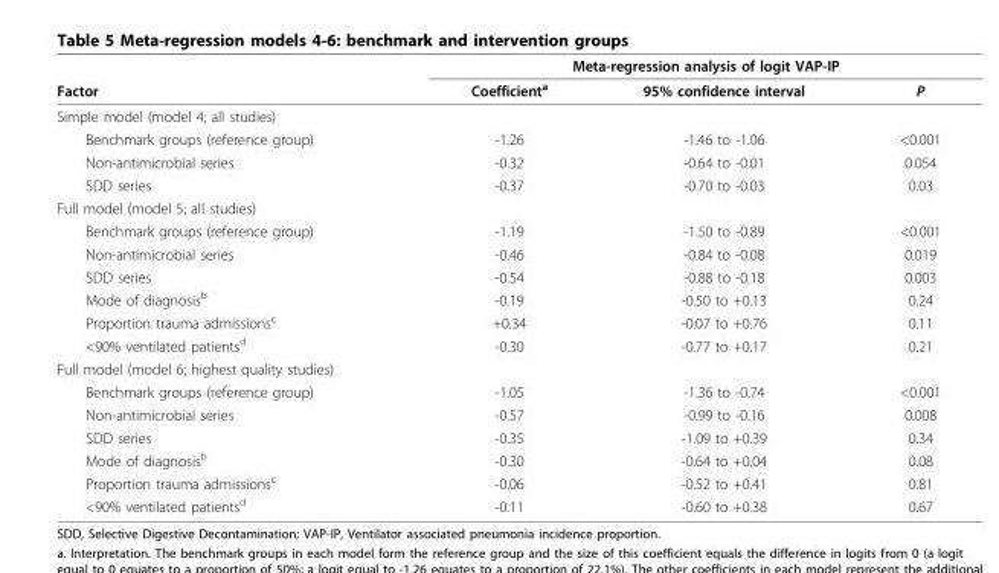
<table><thead><tr><td rowspan="2">Factor</td><td colspan="3">Meta-regression analysis of logit VAP-IP</td></tr><tr><td>Coefficient<sup>a</sup></td><td>95% confidence interval</td><td>P</td></tr></thead><tbody><tr><td colspan="4">Simple model (model 4; all studies)</td></tr><tr><td>Benchmark groups (reference group)</td><td>-1.26</td><td>-1.46 to -1.06</td><td>&lt;0.001</td></tr><tr><td>Non-antimicrobial series</td><td>-0.32</td><td>-0.64 to -0.01</td><td>0.054</td></tr><tr><td>SDD series</td><td>-0.37</td><td>-0.70 to -0.03</td><td>0.03</td></tr><tr><td colspan="4">Full model (model 5; all studies)</td></tr><tr><td>Benchmark groups (reference group)</td><td>-1.19</td><td>-1.50 to -0.89</td><td>&lt;0.001</td></tr><tr><td>Non-antimicrobial series</td><td>-0.46</td><td>-0.84 to -0.08</td><td>0.019</td></tr><tr><td>SDD series</td><td>-0.54</td><td>-0.88 to -0.18</td><td>0.003</td></tr><tr><td>Mode of diagnosis<sup>b</sup></td><td>-0.19</td><td>-0.50 to +0.13</td><td>0.24</td></tr><tr><td>Proportion trauma admissions<sup>c</sup></td><td>+0.34</td><td>-0.07 to +0.76</td><td>0.11</td></tr><tr><td>&lt;90% ventilated patients<sup>d</sup></td><td>-0.30</td><td>-0.77 to +0.17</td><td>0.21</td></tr><tr><td colspan="4">Full model (model 6; highest quality studies)</td></tr><tr><td>Benchmark groups (reference group)</td><td>-1.05</td><td>-1.36 to -0.74</td><td>&lt;0.001</td></tr><tr><td>Non-antimicrobial series</td><td>-0.57</td><td>-0.99 to -0.16</td><td>0.008</td></tr><tr><td>SDD series</td><td>-0.35</td><td>-1.09 to +0.39</td><td>0.34</td></tr><tr><td>Mode of diagnosis<sup>b</sup></td><td>-0.30</td><td>-0.64 to +0.04</td><td>0.08</td></tr><tr><td>Proportion trauma admissions<sup>c</sup></td><td>-0.06</td><td>-0.52 to +0.41</td><td>0.81</td></tr><tr><td>&lt;90% ventilated patients<sup>d</sup></td><td>-0.11</td><td>-0.60 to +0.38</td><td>0.67</td></tr></tbody></table>